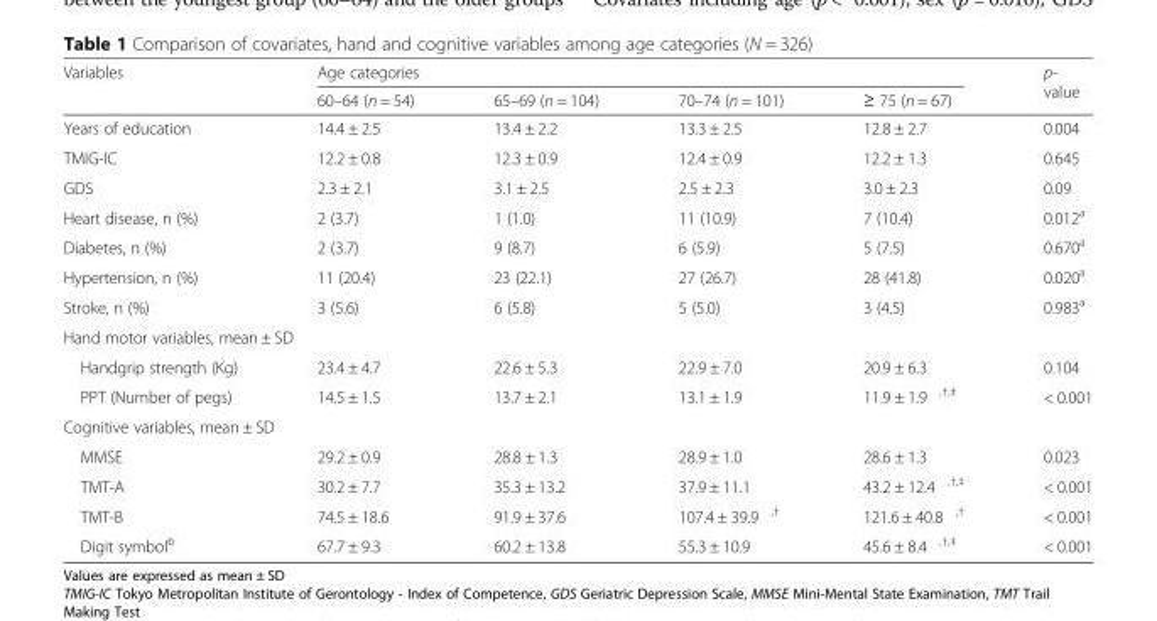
<table><thead><tr><td rowspan="2">Variables</td><td colspan="4">Age categories</td><td rowspan="2">p- value</td></tr><tr><td>60–64 (n = 54)</td><td>65–69 (n = 104)</td><td>70–74 (n = 101)</td><td>≥ 75 (n = 67)</td></tr></thead><tbody><tr><td>Years of education</td><td>14.4 ± 2.5</td><td>13.4 ± 2.2</td><td>13.3 ± 2.5</td><td>12.8 ± 2.7</td><td>0.004</td></tr><tr><td>TMIG-IC</td><td>12.2 ± 0.8</td><td>12.3 ± 0.9</td><td>12.4 ± 0.9</td><td>12.2 ± 1.3</td><td>0.645</td></tr><tr><td>GDS</td><td>2.3 ± 2.1</td><td>3.1 ± 2.5</td><td>2.5 ± 2.3</td><td>3.0 ± 2.3</td><td>0.09</td></tr><tr><td>Heart disease, n (%)</td><td>2 (3.7)</td><td>1 (1.0)</td><td>11 (10.9)</td><td>7 (10.4)</td><td>0.012<sup>a</sup></td></tr><tr><td>Diabetes, n (%)</td><td>2 (3.7)</td><td>9 (8.7)</td><td>6 (5.9)</td><td>5 (7.5)</td><td>0.670<sup>a</sup></td></tr><tr><td>Hypertension, n (%)</td><td>11 (20.4)</td><td>23 (22.1)</td><td>27 (26.7)</td><td>28 (41.8)</td><td>0.020<sup>a</sup></td></tr><tr><td>Stroke, n (%)</td><td>3 (5.6)</td><td>6 (5.8)</td><td>5 (5.0)</td><td>3 (4.5)</td><td>0.983<sup>a</sup></td></tr><tr><td colspan="6">Hand motor variables, mean ± SD</td></tr><tr><td>Handgrip strength (Kg)</td><td>23.4 ± 4.7</td><td>22.6 ± 5.3</td><td>22.9 ± 7.0</td><td>20.9 ± 6.3</td><td>0.104</td></tr><tr><td>PPT (Number of pegs)</td><td>14.5 ± 1.5</td><td>13.7 ± 2.1</td><td>13.1 ± 1.9</td><td>11.9 ± 1.9 ,†,‡</td><td>&lt; 0.001</td></tr><tr><td colspan="6">Cognitive variables, mean ± SD</td></tr><tr><td>MMSE</td><td>29.2 ± 0.9</td><td>28.8 ± 1.3</td><td>28.9 ± 1.0</td><td>28.6 ± 1.3</td><td>0.023</td></tr><tr><td>TMT-A</td><td>30.2 ± 7.7</td><td>35.3 ± 13.2</td><td>37.9 ± 11.1</td><td>43.2 ± 12.4 ,†,‡</td><td>&lt; 0.001</td></tr><tr><td>TMT-B</td><td>74.5 ± 18.6</td><td>91.9 ± 37.6</td><td>107.4 ± 39.9 ,†</td><td>121.6 ± 40.8 ,†</td><td>&lt; 0.001</td></tr><tr><td>Digit symbol<sup>b</sup></td><td>67.7 ± 9.3</td><td>60.2 ± 13.8</td><td>55.3 ± 10.9</td><td>45.6 ± 8.4 ,†,‡</td><td>&lt; 0.001</td></tr></tbody></table>